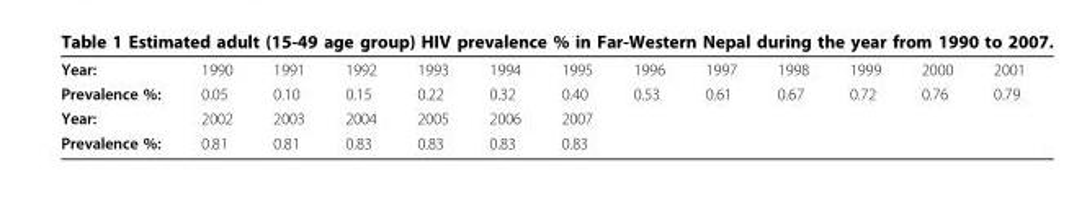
<table><tbody><tr><td>Year:</td><td>1990</td><td>1991</td><td>1992</td><td>1993</td><td>1994</td><td>1995</td><td>1996</td><td>1997</td><td>1998</td><td>1999</td><td>2000</td><td>2001</td></tr><tr><td>Prevalence %:</td><td>0.05</td><td>0.10</td><td>0.15</td><td>0.22</td><td>0.32</td><td>0.40</td><td>0.53</td><td>0.61</td><td>0.67</td><td>0.72</td><td>0.76</td><td>0.79</td></tr><tr><td>Year:</td><td>2002</td><td>2003</td><td>2004</td><td>2005</td><td>2006</td><td>2007</td><td></td><td></td><td></td><td></td><td></td><td></td></tr><tr><td>Prevalence %:</td><td>0.81</td><td>0.81</td><td>0.83</td><td>0.83</td><td>0.83</td><td>0.83</td><td></td><td></td><td></td><td></td><td></td><td></td></tr></tbody></table>